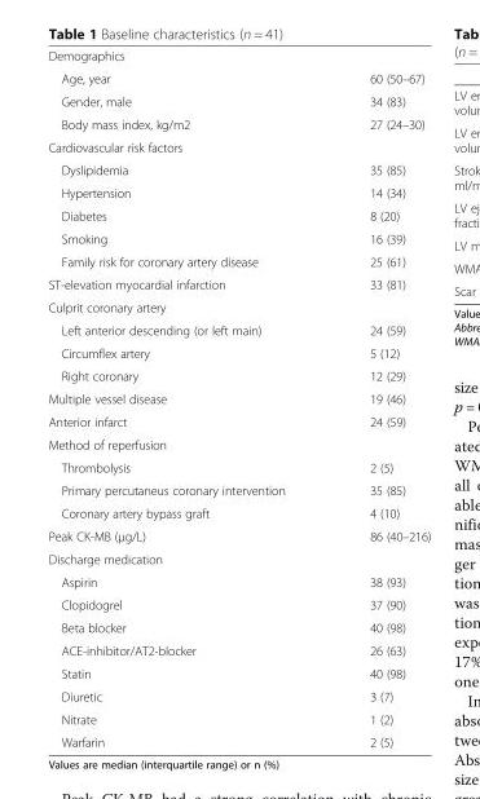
<table><tbody><tr><td colspan="2">Demographics</td></tr><tr><td>Age, year</td><td>60 (50–67)</td></tr><tr><td>Gender, male</td><td>34 (83)</td></tr><tr><td>Body mass index, kg/m2</td><td>27 (24–30)</td></tr><tr><td colspan="2">Cardiovascular risk factors</td></tr><tr><td>Dyslipidemia</td><td>35 (85)</td></tr><tr><td>Hypertension</td><td>14 (34)</td></tr><tr><td>Diabetes</td><td>8 (20)</td></tr><tr><td>Smoking</td><td>16 (39)</td></tr><tr><td>Family risk for coronary artery disease</td><td>25 (61)</td></tr><tr><td>ST-elevation myocardial infarction</td><td>33 (81)</td></tr><tr><td colspan="2">Culprit coronary artery</td></tr><tr><td>Left anterior descending (or left main)</td><td>24 (59)</td></tr><tr><td>Circumflex artery</td><td>5 (12)</td></tr><tr><td>Right coronary</td><td>12 (29)</td></tr><tr><td>Multiple vessel disease</td><td>19 (46)</td></tr><tr><td>Anterior infarct</td><td>24 (59)</td></tr><tr><td colspan="2">Method of reperfusion</td></tr><tr><td>Thrombolysis</td><td>2 (5)</td></tr><tr><td>Primary percutaneus coronary intervention</td><td>35 (85)</td></tr><tr><td>Coronary artery bypass graft</td><td>4 (10)</td></tr><tr><td>Peak CK-MB (μg/L)</td><td>86 (40–216)</td></tr><tr><td colspan="2">Discharge medication</td></tr><tr><td>Aspirin</td><td>38 (93)</td></tr><tr><td>Clopidogrel</td><td>37 (90)</td></tr><tr><td>Beta blocker</td><td>40 (98)</td></tr><tr><td>ACE-inhibitor/AT2-blocker</td><td>26 (63)</td></tr><tr><td>Statin</td><td>40 (98)</td></tr><tr><td>Diuretic</td><td>3 (7)</td></tr><tr><td>Nitrate</td><td>1 (2)</td></tr><tr><td>Warfarin</td><td>2 (5)</td></tr></tbody></table>